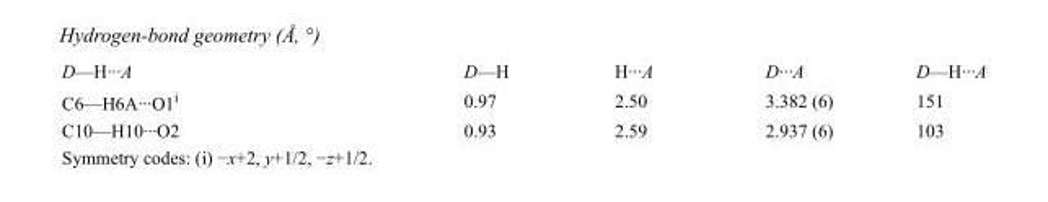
<table><tbody><tr><td>D—H···A</td><td>D—H</td><td>H···A</td><td>D···A</td><td>D—H···A</td></tr><tr><td>C6—H6A···O1<sup>i</sup></td><td>0.97</td><td>2.50</td><td>3.382 (6)</td><td>151</td></tr><tr><td>C10—H10···O2</td><td>0.93</td><td>2.59</td><td>2.937 (6)</td><td>103</td></tr></tbody></table>